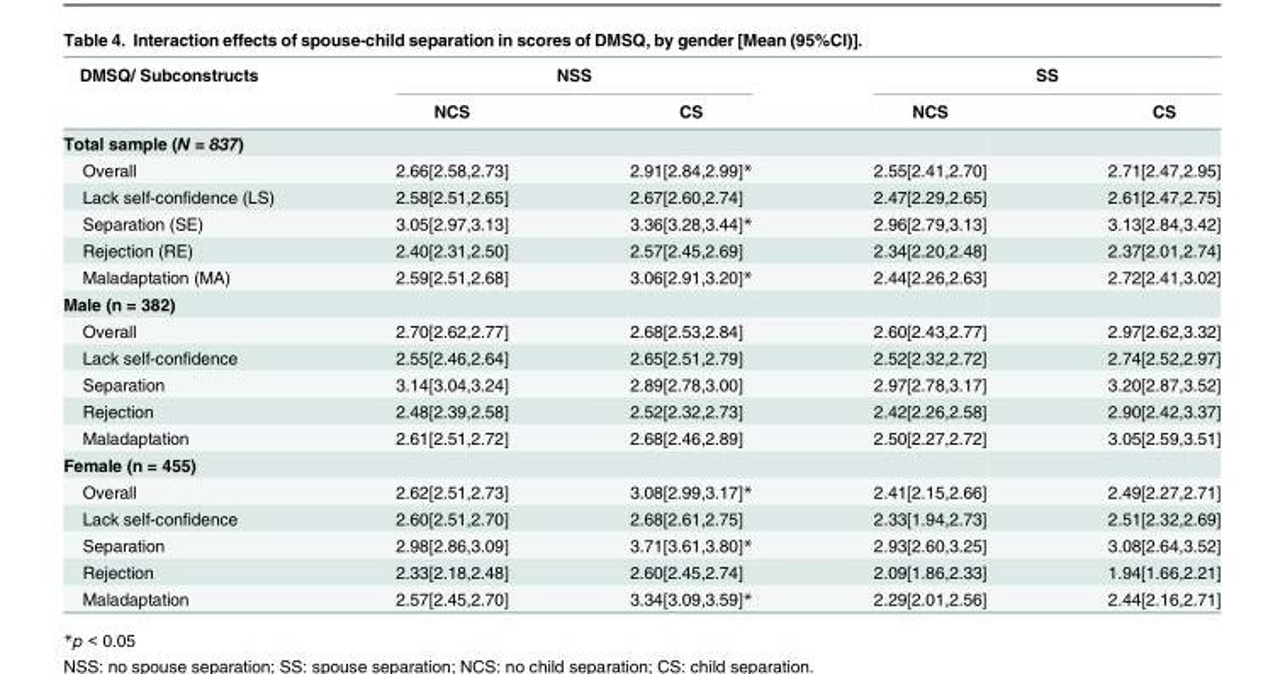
<table><thead><tr><td rowspan="2">DMSQ/ Subconstructs</td><td colspan="2">NSS</td><td colspan="2">SS</td></tr><tr><td>NCS</td><td>CS</td><td>NCS</td><td>CS</td></tr></thead><tbody><tr><td colspan="5">Total sample (N = 837)</td></tr><tr><td>Overall</td><td>2.66[2.58,2.73]</td><td>2.91[2.84,2.99]*</td><td>2.55[2.41,2.70]</td><td>2.71[2.47,2.95]</td></tr><tr><td>Lack self-confidence (LS)</td><td>2.58[2.51,2.65]</td><td>2.67[2.60,2.74]</td><td>2.47[2.29,2.65]</td><td>2.61[2.47,2.75]</td></tr><tr><td>Separation (SE)</td><td>3.05[2.97,3.13]</td><td>3.36[3.28,3.44]*</td><td>2.96[2.79,3.13]</td><td>3.13[2.84,3.42]</td></tr><tr><td>Rejection (RE)</td><td>2.40[2.31,2.50]</td><td>2.57[2.45,2.69]</td><td>2.34[2.20,2.48]</td><td>2.37[2.01,2.74]</td></tr><tr><td>Maladaptation (MA)</td><td>2.59[2.51,2.68]</td><td>3.06[2.91,3.20]*</td><td>2.44[2.26,2.63]</td><td>2.72[2.41,3.02]</td></tr><tr><td colspan="5">Male (n = 382)</td></tr><tr><td>Overall</td><td>2.70[2.62,2.77]</td><td>2.68[2.53,2.84]</td><td>2.60[2.43,2.77]</td><td>2.97[2.62,3.32]</td></tr><tr><td>Lack self-confidence</td><td>2.55[2.46,2.64]</td><td>2.65[2.51,2.79]</td><td>2.52[2.32,2.72]</td><td>2.74[2.52,2.97]</td></tr><tr><td>Separation</td><td>3.14[3.04,3.24]</td><td>2.89[2.78,3.00]</td><td>2.97[2.78,3.17]</td><td>3.20[2.87,3.52]</td></tr><tr><td>Rejection</td><td>2.48[2.39,2.58]</td><td>2.52[2.32,2.73]</td><td>2.42[2.26,2.58]</td><td>2.90[2.42,3.37]</td></tr><tr><td>Maladaptation</td><td>2.61[2.51,2.72]</td><td>2.68[2.46,2.89]</td><td>2.50[2.27,2.72]</td><td>3.05[2.59,3.51]</td></tr><tr><td colspan="5">Female (n = 455)</td></tr><tr><td>Overall</td><td>2.62[2.51,2.73]</td><td>3.08[2.99,3.17]*</td><td>2.41[2.15,2.66]</td><td>2.49[2.27,2.71]</td></tr><tr><td>Lack self-confidence</td><td>2.60[2.51,2.70]</td><td>2.68[2.61,2.75]</td><td>2.33[1.94,2.73]</td><td>2.51[2.32,2.69]</td></tr><tr><td>Separation</td><td>2.98[2.86,3.09]</td><td>3.71[3.61,3.80]*</td><td>2.93[2.60,3.25]</td><td>3.08[2.64,3.52]</td></tr><tr><td>Rejection</td><td>2.33[2.18,2.48]</td><td>2.60[2.45,2.74]</td><td>2.09[1.86,2.33]</td><td>1.94[1.66,2.21]</td></tr><tr><td>Maladaptation</td><td>2.57[2.45,2.70]</td><td>3.34[3.09,3.59]*</td><td>2.29[2.01,2.56]</td><td>2.44[2.16,2.71]</td></tr></tbody></table>